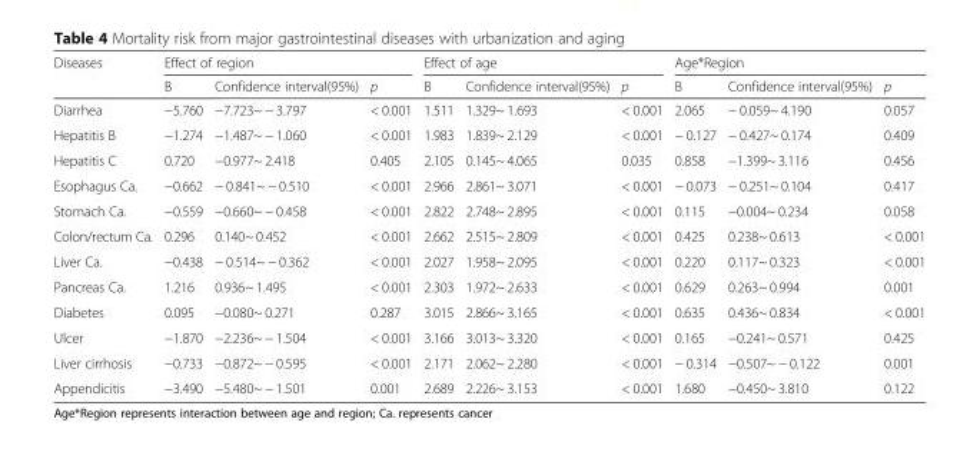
<table><thead><tr><td rowspan="2">Diseases</td><td colspan="3">Effect of region</td><td colspan="3">Effect of age</td><td colspan="3">Age*Region</td></tr><tr><td>B</td><td>Confidence interval(95%)</td><td>p</td><td>B</td><td>Confidence interval(95%)</td><td>p</td><td>B</td><td>Confidence interval(95%)</td><td>p</td></tr></thead><tbody><tr><td>Diarrhea</td><td>−5.760</td><td>−7.723~ − 3.797</td><td>&lt; 0.001</td><td>1.511</td><td>1.329~ 1.693</td><td>&lt; 0.001</td><td>2.065</td><td>− 0.059~ 4.190</td><td>0.057</td></tr><tr><td>Hepatitis B</td><td>−1.274</td><td>−1.487~ − 1.060</td><td>&lt; 0.001</td><td>1.983</td><td>1.839~ 2.129</td><td>&lt; 0.001</td><td>− 0.127</td><td>− 0.427~ 0.174</td><td>0.409</td></tr><tr><td>Hepatitis C</td><td>0.720</td><td>−0.977~ 2.418</td><td>0.405</td><td>2.105</td><td>0.145~ 4.065</td><td>0.035</td><td>0.858</td><td>−1.399~ 3.116</td><td>0.456</td></tr><tr><td>Esophagus Ca.</td><td>−0.662</td><td>− 0.841~ − 0.510</td><td>&lt; 0.001</td><td>2.966</td><td>2.861~ 3.071</td><td>&lt; 0.001</td><td>− 0.073</td><td>− 0.251~ 0.104</td><td>0.417</td></tr><tr><td>Stomach Ca.</td><td>−0.559</td><td>−0.660~ − 0.458</td><td>&lt; 0.001</td><td>2.822</td><td>2.748~ 2.895</td><td>&lt; 0.001</td><td>0.115</td><td>−0.004~ 0.234</td><td>0.058</td></tr><tr><td>Colon/rectum Ca.</td><td>0.296</td><td>0.140~ 0.452</td><td>&lt; 0.001</td><td>2.662</td><td>2.515~ 2.809</td><td>&lt; 0.001</td><td>0.425</td><td>0.238~ 0.613</td><td>&lt; 0.001</td></tr><tr><td>Liver Ca.</td><td>−0.438</td><td>− 0.514~ − 0.362</td><td>&lt; 0.001</td><td>2.027</td><td>1.958~ 2.095</td><td>&lt; 0.001</td><td>0.220</td><td>0.117~ 0.323</td><td>&lt; 0.001</td></tr><tr><td>Pancreas Ca.</td><td>1.216</td><td>0.936~ 1.495</td><td>&lt; 0.001</td><td>2.303</td><td>1.972~ 2.633</td><td>&lt; 0.001</td><td>0.629</td><td>0.263~ 0.994</td><td>0.001</td></tr><tr><td>Diabetes</td><td>0.095</td><td>−0.080~ 0.271</td><td>0.287</td><td>3.015</td><td>2.866~ 3.165</td><td>&lt; 0.001</td><td>0.635</td><td>0.436~ 0.834</td><td>&lt; 0.001</td></tr><tr><td>Ulcer</td><td>−1.870</td><td>−2.236~ − 1.504</td><td>&lt; 0.001</td><td>3.166</td><td>3.013~ 3.320</td><td>&lt; 0.001</td><td>0.165</td><td>−0.241~ 0.571</td><td>0.425</td></tr><tr><td>Liver cirrhosis</td><td>−0.733</td><td>−0.872~ − 0.595</td><td>&lt; 0.001</td><td>2.171</td><td>2.062~ 2.280</td><td>&lt; 0.001</td><td>− 0.314</td><td>−0.507~ − 0.122</td><td>0.001</td></tr><tr><td>Appendicitis</td><td>−3.490</td><td>−5.480~ − 1.501</td><td>0.001</td><td>2.689</td><td>2.226~ 3.153</td><td>&lt; 0.001</td><td>1.680</td><td>−0.450~ 3.810</td><td>0.122</td></tr></tbody></table>